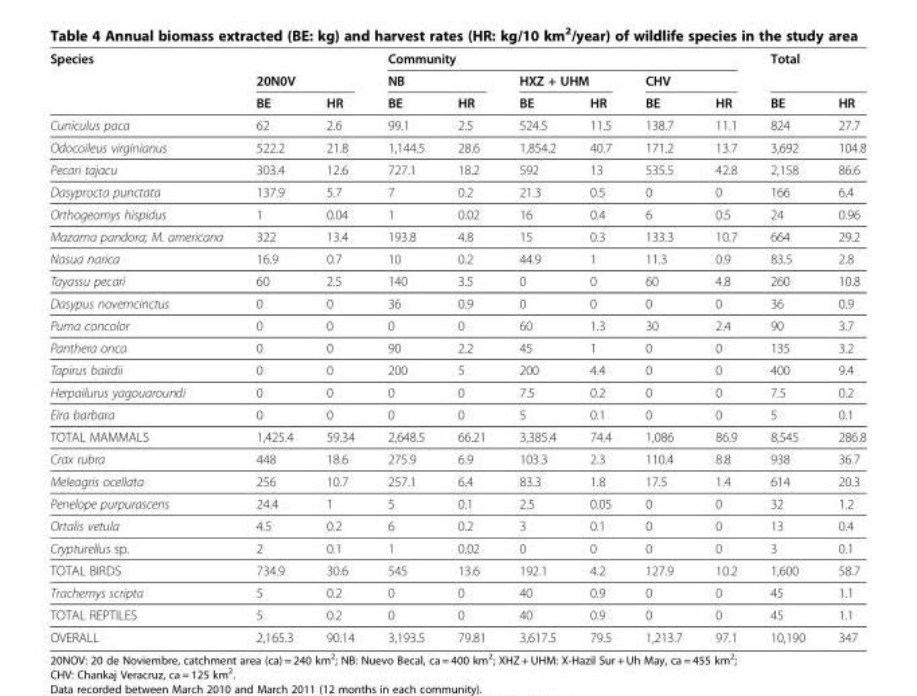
<table><thead><tr><td rowspan="3">Species</td><td></td><td></td><td colspan="6">Community</td><td colspan="2">Total</td></tr><tr><td colspan="2">20N0V</td><td colspan="2">NB</td><td colspan="2">HXZ + UHM</td><td colspan="2">CHV</td><td rowspan="2">BE</td><td rowspan="2">HR</td></tr><tr><td>BE</td><td>HR</td><td>BE</td><td>HR</td><td>BE</td><td>HR</td><td>BE</td><td>HR</td></tr></thead><tbody><tr><td>Cuniculus paca</td><td>62</td><td>2.6</td><td>99.1</td><td>2.5</td><td>524.5</td><td>11.5</td><td>138.7</td><td>11.1</td><td>824</td><td>27.7</td></tr><tr><td>Odocoileus virginianus</td><td>522.2</td><td>21.8</td><td>1,144.5</td><td>28.6</td><td>1,854.2</td><td>40.7</td><td>171.2</td><td>13.7</td><td>3,692</td><td>104.8</td></tr><tr><td>Pecari tajacu</td><td>303.4</td><td>12.6</td><td>727.1</td><td>18.2</td><td>592</td><td>13</td><td>535.5</td><td>42.8</td><td>2,158</td><td>86.6</td></tr><tr><td>Dasyprocta punctata</td><td>137.9</td><td>5.7</td><td>7</td><td>0.2</td><td>21.3</td><td>0.5</td><td>0</td><td>0</td><td>166</td><td>6.4</td></tr><tr><td>Orthogeomys hispidus</td><td>1</td><td>0.04</td><td>1</td><td>0.02</td><td>16</td><td>0.4</td><td>6</td><td>0.5</td><td>24</td><td>0.96</td></tr><tr><td>Mazama pandora; M. americana</td><td>322</td><td>13.4</td><td>193.8</td><td>4.8</td><td>15</td><td>0.3</td><td>133.3</td><td>10.7</td><td>664</td><td>29.2</td></tr><tr><td>Nasua narica</td><td>16.9</td><td>0.7</td><td>10</td><td>0.2</td><td>44.9</td><td>1</td><td>11.3</td><td>0.9</td><td>83.5</td><td>2.8</td></tr><tr><td>Tayassu pecari</td><td>60</td><td>2.5</td><td>140</td><td>3.5</td><td>0</td><td>0</td><td>60</td><td>4.8</td><td>260</td><td>10.8</td></tr><tr><td>Dasypus novemcinctus</td><td>0</td><td>0</td><td>36</td><td>0.9</td><td>0</td><td>0</td><td>0</td><td>0</td><td>36</td><td>0.9</td></tr><tr><td>Puma concolor</td><td>0</td><td>0</td><td>0</td><td>0</td><td>60</td><td>1.3</td><td>30</td><td>2.4</td><td>90</td><td>3.7</td></tr><tr><td>Panthera onca</td><td>0</td><td>0</td><td>90</td><td>2.2</td><td>45</td><td>1</td><td>0</td><td>0</td><td>135</td><td>3.2</td></tr><tr><td>Tapirus bairdii</td><td>0</td><td>0</td><td>200</td><td>5</td><td>200</td><td>4.4</td><td>0</td><td>0</td><td>400</td><td>9.4</td></tr><tr><td>Herpailurus yagouaroundi</td><td>0</td><td>0</td><td>0</td><td>0</td><td>7.5</td><td>0.2</td><td>0</td><td>0</td><td>7.5</td><td>0.2</td></tr><tr><td>Eira barbara</td><td>0</td><td>0</td><td>0</td><td>0</td><td>5</td><td>0.1</td><td>0</td><td>0</td><td>5</td><td>0.1</td></tr><tr><td>TOTAL MAMMALS</td><td>1,425.4</td><td>59.34</td><td>2,648.5</td><td>66.21</td><td>3,385.4</td><td>74.4</td><td>1,086</td><td>86.9</td><td>8,545</td><td>286.8</td></tr><tr><td>Crax rubra</td><td>448</td><td>18.6</td><td>275.9</td><td>6.9</td><td>103.3</td><td>2.3</td><td>110.4</td><td>8.8</td><td>938</td><td>36.7</td></tr><tr><td>Meleagris ocellata</td><td>256</td><td>10.7</td><td>257.1</td><td>6.4</td><td>83.3</td><td>1.8</td><td>17.5</td><td>1.4</td><td>614</td><td>20.3</td></tr><tr><td>Penelope purpurascens</td><td>24.4</td><td>1</td><td>5</td><td>0.1</td><td>2.5</td><td>0.05</td><td>0</td><td>0</td><td>32</td><td>1.2</td></tr><tr><td>Ortalis vetula</td><td>4.5</td><td>0.2</td><td>6</td><td>0.2</td><td>3</td><td>0.1</td><td>0</td><td>0</td><td>13</td><td>0.4</td></tr><tr><td>Crypturellus sp.</td><td>2</td><td>0.1</td><td>1</td><td>0.02</td><td>0</td><td>0</td><td>0</td><td>0</td><td>3</td><td>0.1</td></tr><tr><td>TOTAL BIRDS</td><td>734.9</td><td>30.6</td><td>545</td><td>13.6</td><td>192.1</td><td>4.2</td><td>127.9</td><td>10.2</td><td>1,600</td><td>58.7</td></tr><tr><td>Trachemys scripta</td><td>5</td><td>0.2</td><td>0</td><td>0</td><td>40</td><td>0.9</td><td>0</td><td>0</td><td>45</td><td>1.1</td></tr><tr><td>TOTAL REPTILES</td><td>5</td><td>0.2</td><td>0</td><td>0</td><td>40</td><td>0.9</td><td>0</td><td>0</td><td>45</td><td>1.1</td></tr><tr><td>OVERALL</td><td>2,165.3</td><td>90.14</td><td>3,193.5</td><td>79.81</td><td>3,617.5</td><td>79.5</td><td>1,213.7</td><td>97.1</td><td>10,190</td><td>347</td></tr></tbody></table>